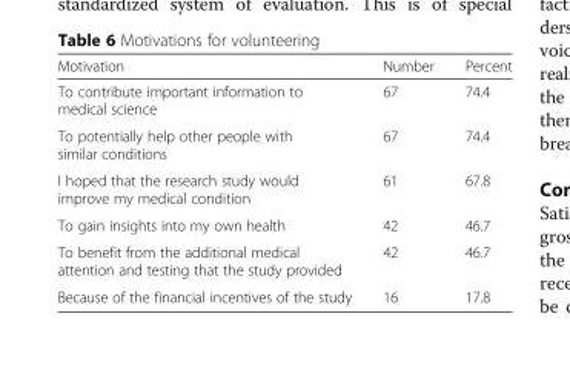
<table><thead><tr><td>Motivation</td><td>Number</td><td>Percent</td></tr></thead><tbody><tr><td>To contribute important information to medical science</td><td>67</td><td>74.4</td></tr><tr><td>To potentially help other people with similar conditions</td><td>67</td><td>74.4</td></tr><tr><td>I hoped that the research study would improve my medical condition</td><td>61</td><td>67.8</td></tr><tr><td>To gain insights into my own health</td><td>42</td><td>46.7</td></tr><tr><td>To benefit from the additional medical attention and testing that the study provided</td><td>42</td><td>46.7</td></tr><tr><td>Because of the financial incentives of the study</td><td>16</td><td>17.8</td></tr></tbody></table>